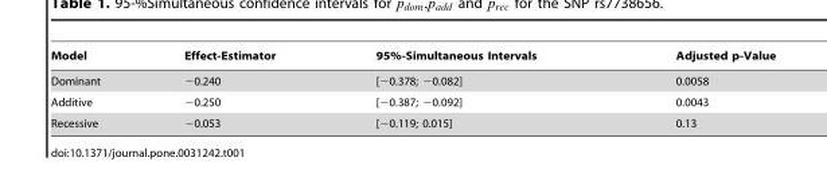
<table><thead><tr><td>Model</td><td>Effect-Estimator</td><td>95%-Simultaneous Intervals</td><td>Adjusted p-Value</td></tr></thead><tbody><tr><td>Dominant</td><td>−0.240</td><td>[−0.378; −0.082]</td><td>0.0058</td></tr><tr><td>Additive</td><td>−0.250</td><td>[−0.387; −0.092]</td><td>0.0043</td></tr><tr><td>Recessive</td><td>−0.053</td><td>[−0.119; 0.015]</td><td>0.13</td></tr></tbody></table>